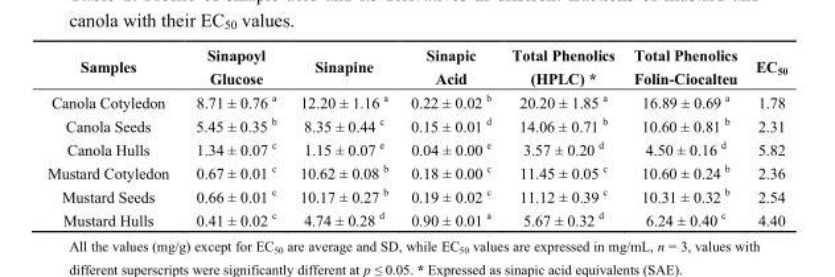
<table><thead><tr><td>Samples</td><td>Sinapoyl Glucose</td><td>Sinapine</td><td>Sinapic Acid</td><td>Total Phenolics (HPLC) *</td><td>Total Phenolics Folin-Ciocalteu</td><td>EC<sub>50</sub></td></tr></thead><tbody><tr><td>Canola Cotyledon</td><td>8.71 ± 0.76 <sup>a</sup></td><td>12.20 ± 1.16 <sup>a</sup></td><td>0.22 ± 0.02 <sup>b</sup></td><td>20.20 ± 1.85 <sup>a</sup></td><td>16.89 ± 0.69 <sup>a</sup></td><td>1.78</td></tr><tr><td>Canola Seeds</td><td>5.45 ± 0.35 <sup>b</sup></td><td>8.35 ± 0.44 <sup>c</sup></td><td>0.15 ± 0.01 <sup>d</sup></td><td>14.06 ± 0.71 <sup>b</sup></td><td>10.60 ± 0.81 <sup>b</sup></td><td>2.31</td></tr><tr><td>Canola Hulls</td><td>1.34 ± 0.07 <sup>c</sup></td><td>1.15 ± 0.07 <sup>e</sup></td><td>0.04 ± 0.00 <sup>e</sup></td><td>3.57 ± 0.20 <sup>d</sup></td><td>4.50 ± 0.16 <sup>d</sup></td><td>5.82</td></tr><tr><td>Mustard Cotyledon</td><td>0.67 ± 0.01 <sup>c</sup></td><td>10.62 ± 0.08 <sup>b</sup></td><td>0.18 ± 0.00 <sup>c</sup></td><td>11.45 ± 0.05 <sup>c</sup></td><td>10.60 ± 0.24 <sup>b</sup></td><td>2.36</td></tr><tr><td>Mustard Seeds</td><td>0.66 ± 0.01 <sup>c</sup></td><td>10.17 ± 0.27 <sup>b</sup></td><td>0.19 ± 0.02 <sup>c</sup></td><td>11.12 ± 0.39 <sup>c</sup></td><td>10.31 ± 0.32 <sup>b</sup></td><td>2.54</td></tr><tr><td>Mustard Hulls</td><td>0.41 ± 0.02 <sup>c</sup></td><td>4.74 ± 0.28 <sup>d</sup></td><td>0.90 ± 0.01 <sup>a</sup></td><td>5.67 ± 0.32 <sup>d</sup></td><td>6.24 ± 0.40 <sup>c</sup></td><td>4.40</td></tr></tbody></table>